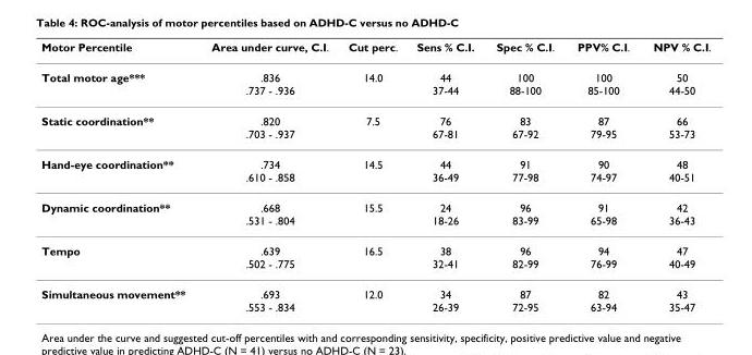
<table><thead><tr><td>Motor Percentile</td><td>Area under curve, C.I.</td><td>Cut perc.</td><td>Sens % C.I.</td><td>Spec % C.I.</td><td>PPV% C.I.</td><td>NPV % C.I.</td></tr></thead><tbody><tr><td>Total motor age***</td><td>.836 .737 - .936</td><td>14.0</td><td>44 37-44</td><td>100 88-100</td><td>100 85-100</td><td>50 44-50</td></tr><tr><td>Static coordination**</td><td>.820 .703 - .937</td><td>7.5</td><td>76 67-81</td><td>83 67-92</td><td>87 79-95</td><td>66 53-73</td></tr><tr><td>Hand-eye coordination**</td><td>.734 .610 - .858</td><td>14.5</td><td>44 36-49</td><td>91 77-98</td><td>90 74-97</td><td>48 40-51</td></tr><tr><td>Dynamic coordination**</td><td>.668 .531 - .804</td><td>15.5</td><td>24 18-26</td><td>96 83-99</td><td>91 65-98</td><td>42 36-43</td></tr><tr><td>Tempo</td><td>.639 .502 - .775</td><td>16.5</td><td>38 32-41</td><td>96 82-99</td><td>94 76-99</td><td>47 40-49</td></tr><tr><td>Simultaneous movement**</td><td>.693 .553 - .834</td><td>12.0</td><td>34 26-39</td><td>87 72-95</td><td>82 63-94</td><td>43 35-47</td></tr></tbody></table>